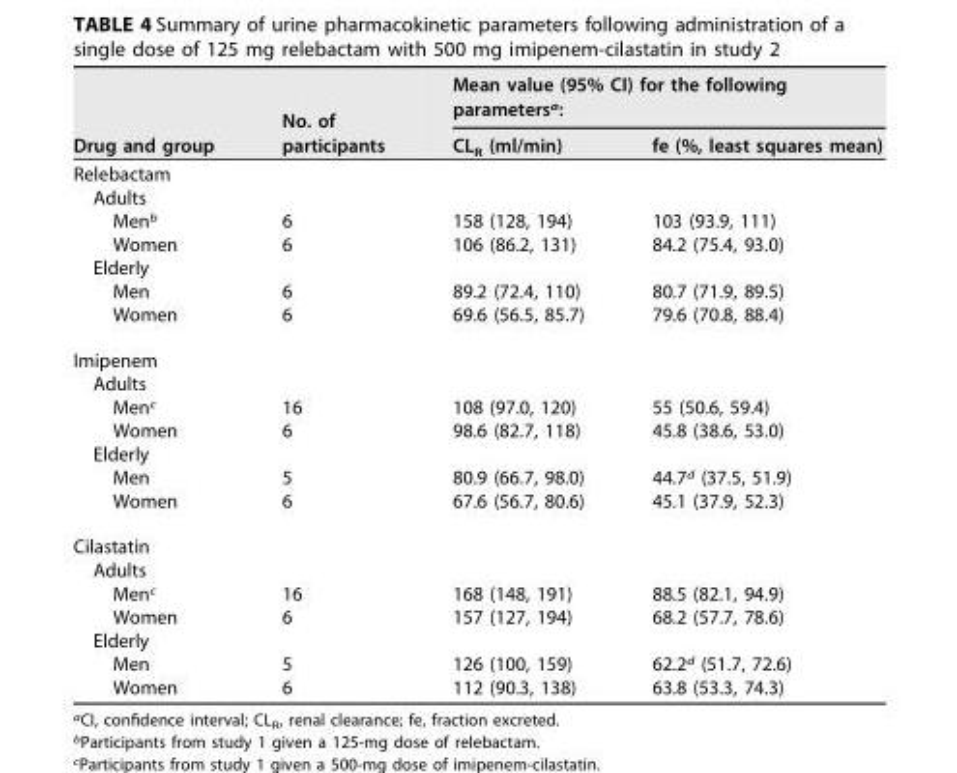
<table><thead><tr><td rowspan="2">Drug and group</td><td rowspan="2">No. of participants</td><td colspan="2">Mean value (95% CI) for the following parameters<sup>a</sup>:</td></tr><tr><td>CL<sub>R</sub> (ml/min)</td><td>fe (%, least squares mean)</td></tr></thead><tbody><tr><td colspan="4">Relebactam</td></tr><tr><td colspan="4">Adults</td></tr><tr><td>Men<sup>b</sup></td><td>6</td><td>158 (128, 194)</td><td>103 (93.9, 111)</td></tr><tr><td>Women</td><td>6</td><td>106 (86.2, 131)</td><td>84.2 (75.4, 93.0)</td></tr><tr><td colspan="4">Elderly</td></tr><tr><td>Men</td><td>6</td><td>89.2 (72.4, 110)</td><td>80.7 (71.9, 89.5)</td></tr><tr><td>Women</td><td>6</td><td>69.6 (56.5, 85.7)</td><td>79.6 (70.8, 88.4)</td></tr><tr><td colspan="4">Imipenem</td></tr><tr><td colspan="4">Adults</td></tr><tr><td>Men<sup>c</sup></td><td>16</td><td>108 (97.0, 120)</td><td>55 (50.6, 59.4)</td></tr><tr><td>Women</td><td>6</td><td>98.6 (82.7, 118)</td><td>45.8 (38.6, 53.0)</td></tr><tr><td colspan="4">Elderly</td></tr><tr><td>Men</td><td>5</td><td>80.9 (66.7, 98.0)</td><td>44.7<sup>d</sup> (37.5, 51.9)</td></tr><tr><td>Women</td><td>6</td><td>67.6 (56.7, 80.6)</td><td>45.1 (37.9, 52.3)</td></tr><tr><td colspan="4">Cilastatin</td></tr><tr><td colspan="4">Adults</td></tr><tr><td>Men<sup>c</sup></td><td>16</td><td>168 (148, 191)</td><td>88.5 (82.1, 94.9)</td></tr><tr><td>Women</td><td>6</td><td>157 (127, 194)</td><td>68.2 (57.7, 78.6)</td></tr><tr><td colspan="4">Elderly</td></tr><tr><td>Men</td><td>5</td><td>126 (100, 159)</td><td>62.2<sup>d</sup> (51.7, 72.6)</td></tr><tr><td>Women</td><td>6</td><td>112 (90.3, 138)</td><td>63.8 (53.3, 74.3)</td></tr></tbody></table>